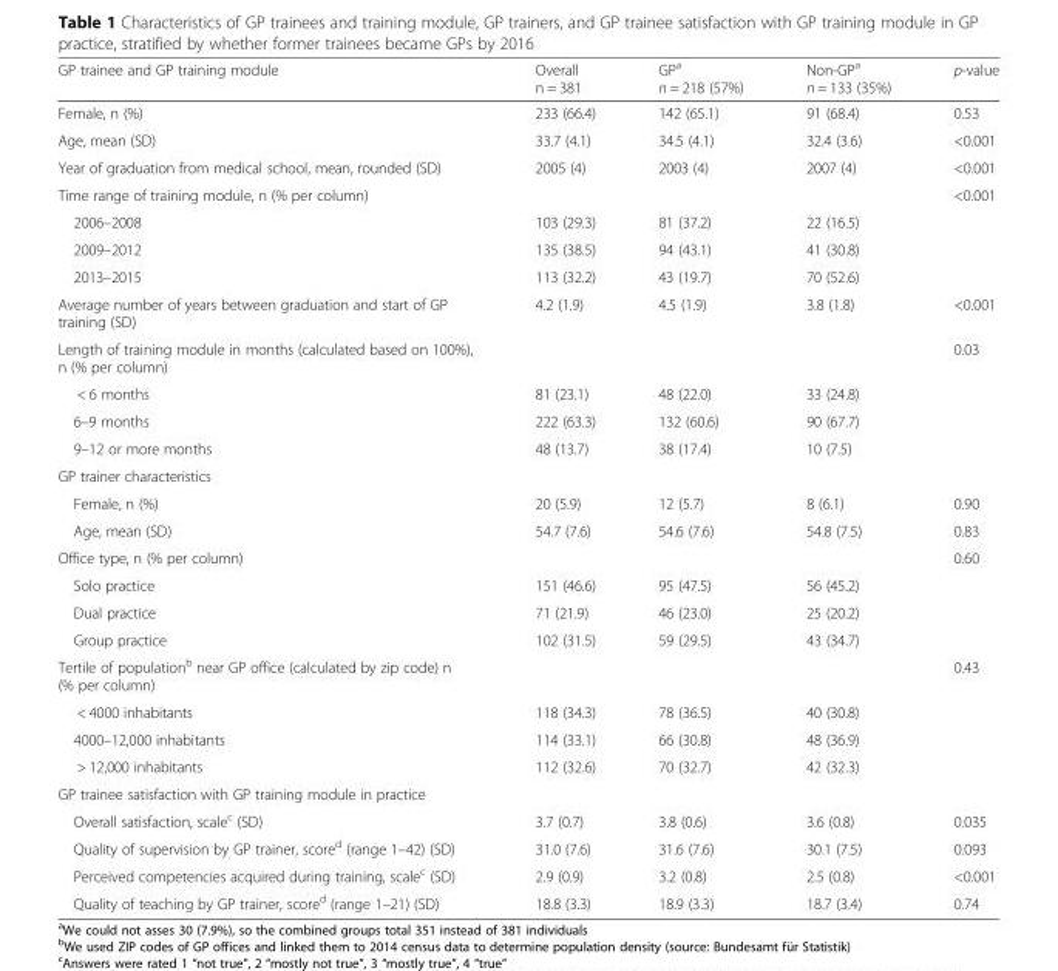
<table><thead><tr><td>GP trainee and GP training module</td><td>Overall n = 381</td><td>GP<sup>a</sup> n = 218 (57%)</td><td>Non-GP<sup>a</sup> n = 133 (35%)</td><td>p-value</td></tr></thead><tbody><tr><td>Female, n (%)</td><td>233 (66.4)</td><td>142 (65.1)</td><td>91 (68.4)</td><td>0.53</td></tr><tr><td>Age, mean (SD)</td><td>33.7 (4.1)</td><td>34.5 (4.1)</td><td>32.4 (3.6)</td><td>&lt;0.001</td></tr><tr><td>Year of graduation from medical school, mean, rounded (SD)</td><td>2005 (4)</td><td>2003 (4)</td><td>2007 (4)</td><td>&lt;0.001</td></tr><tr><td>Time range of training module, n (% per column)</td><td></td><td></td><td></td><td>&lt;0.001</td></tr><tr><td>2006–2008</td><td>103 (29.3)</td><td>81 (37.2)</td><td>22 (16.5)</td><td></td></tr><tr><td>2009–2012</td><td>135 (38.5)</td><td>94 (43.1)</td><td>41 (30.8)</td><td></td></tr><tr><td>2013–2015</td><td>113 (32.2)</td><td>43 (19.7)</td><td>70 (52.6)</td><td></td></tr><tr><td>Average number of years between graduation and start of GP training (SD)</td><td>4.2 (1.9)</td><td>4.5 (1.9)</td><td>3.8 (1.8)</td><td>&lt;0.001</td></tr><tr><td>Length of training module in months (calculated based on 100%), n (% per column)</td><td></td><td></td><td></td><td>0.03</td></tr><tr><td>&lt; 6 months</td><td>81 (23.1)</td><td>48 (22.0)</td><td>33 (24.8)</td><td></td></tr><tr><td>6–9 months</td><td>222 (63.3)</td><td>132 (60.6)</td><td>90 (67.7)</td><td></td></tr><tr><td>9–12 or more months</td><td>48 (13.7)</td><td>38 (17.4)</td><td>10 (7.5)</td><td></td></tr><tr><td colspan="5">GP trainer characteristics</td></tr><tr><td>Female, n (%)</td><td>20 (5.9)</td><td>12 (5.7)</td><td>8 (6.1)</td><td>0.90</td></tr><tr><td>Age, mean (SD)</td><td>54.7 (7.6)</td><td>54.6 (7.6)</td><td>54.8 (7.5)</td><td>0.83</td></tr><tr><td>Office type, n (% per column)</td><td></td><td></td><td></td><td>0.60</td></tr><tr><td>Solo practice</td><td>151 (46.6)</td><td>95 (47.5)</td><td>56 (45.2)</td><td></td></tr><tr><td>Dual practice</td><td>71 (21.9)</td><td>46 (23.0)</td><td>25 (20.2)</td><td></td></tr><tr><td>Group practice</td><td>102 (31.5)</td><td>59 (29.5)</td><td>43 (34.7)</td><td></td></tr><tr><td>Tertile of population<sup>b</sup> near GP office (calculated by zip code) n (% per column)</td><td></td><td></td><td></td><td>0.43</td></tr><tr><td>&lt; 4000 inhabitants</td><td>118 (34.3)</td><td>78 (36.5)</td><td>40 (30.8)</td><td></td></tr><tr><td>4000–12,000 inhabitants</td><td>114 (33.1)</td><td>66 (30.8)</td><td>48 (36.9)</td><td></td></tr><tr><td>&gt; 12,000 inhabitants</td><td>112 (32.6)</td><td>70 (32.7)</td><td>42 (32.3)</td><td></td></tr><tr><td colspan="5">GP trainee satisfaction with GP training module in practice</td></tr><tr><td>Overall satisfaction, scale<sup>c</sup> (SD)</td><td>3.7 (0.7)</td><td>3.8 (0.6)</td><td>3.6 (0.8)</td><td>0.035</td></tr><tr><td>Quality of supervision by GP trainer, score<sup>d</sup> (range 1–42) (SD)</td><td>31.0 (7.6)</td><td>31.6 (7.6)</td><td>30.1 (7.5)</td><td>0.093</td></tr><tr><td>Perceived competencies acquired during training, scale<sup>c</sup> (SD)</td><td>2.9 (0.9)</td><td>3.2 (0.8)</td><td>2.5 (0.8)</td><td>&lt;0.001</td></tr><tr><td>Quality of teaching by GP trainer, score<sup>d</sup> (range 1–21) (SD)</td><td>18.8 (3.3)</td><td>18.9 (3.3)</td><td>18.7 (3.4)</td><td>0.74</td></tr></tbody></table>